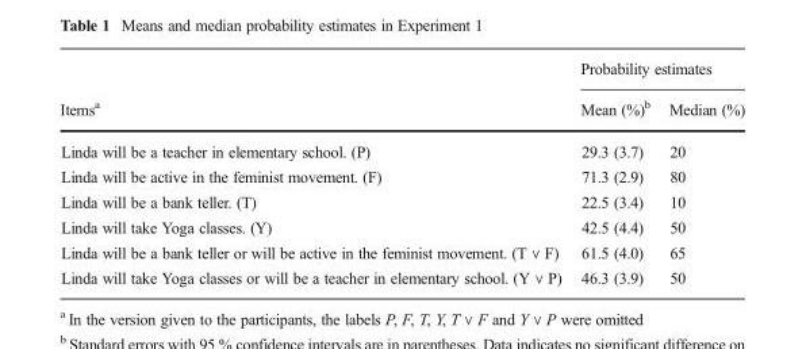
<table><thead><tr><td rowspan="2">Items<sup>a</sup></td><td colspan="2">Probability estimates</td></tr><tr><td>Mean (%)<sup>b</sup></td><td>Median (%)</td></tr></thead><tbody><tr><td>Linda will be a teacher in elementary school. (P)</td><td>29.3 (3.7)</td><td>20</td></tr><tr><td>Linda will be active in the feminist movement. (F)</td><td>71.3 (2.9)</td><td>80</td></tr><tr><td>Linda will be a bank teller. (T)</td><td>22.5 (3.4)</td><td>10</td></tr><tr><td>Linda will take Yoga classes. (Y)</td><td>42.5 (4.4)</td><td>50</td></tr><tr><td>Linda will be a bank teller or will be active in the feminist movement. (T ∨ F)</td><td>61.5 (4.0)</td><td>65</td></tr><tr><td>Linda will take Yoga classes or will be a teacher in elementary school. (Y ∨ P)</td><td>46.3 (3.9)</td><td>50</td></tr></tbody></table>